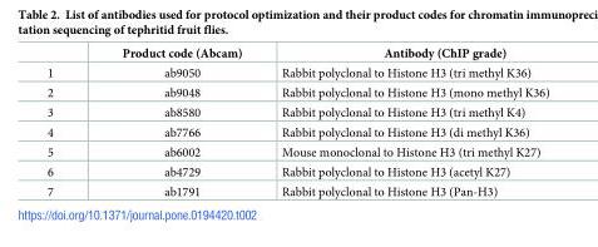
<table><thead><tr><td></td><td>Product code (Abcam)</td><td>Antibody (ChIP grade)</td></tr></thead><tbody><tr><td>1</td><td>ab9050</td><td>Rabbit polyclonal to Histone H3 (tri methyl K36)</td></tr><tr><td>2</td><td>ab9048</td><td>Rabbit polyclonal to Histone H3 (mono methyl K36)</td></tr><tr><td>3</td><td>ab8580</td><td>Rabbit polyclonal to Histone H3 (tri methyl K4)</td></tr><tr><td>4</td><td>ab7766</td><td>Rabbit polyclonal to Histone H3 (di methyl K36)</td></tr><tr><td>5</td><td>ab6002</td><td>Mouse monoclonal to Histone H3 (tri methyl K27)</td></tr><tr><td>6</td><td>ab4729</td><td>Rabbit polyclonal to Histone H3 (acetyl K27)</td></tr><tr><td>7</td><td>ab1791</td><td>Rabbit polyclonal to Histone H3 (Pan-H3)</td></tr></tbody></table>